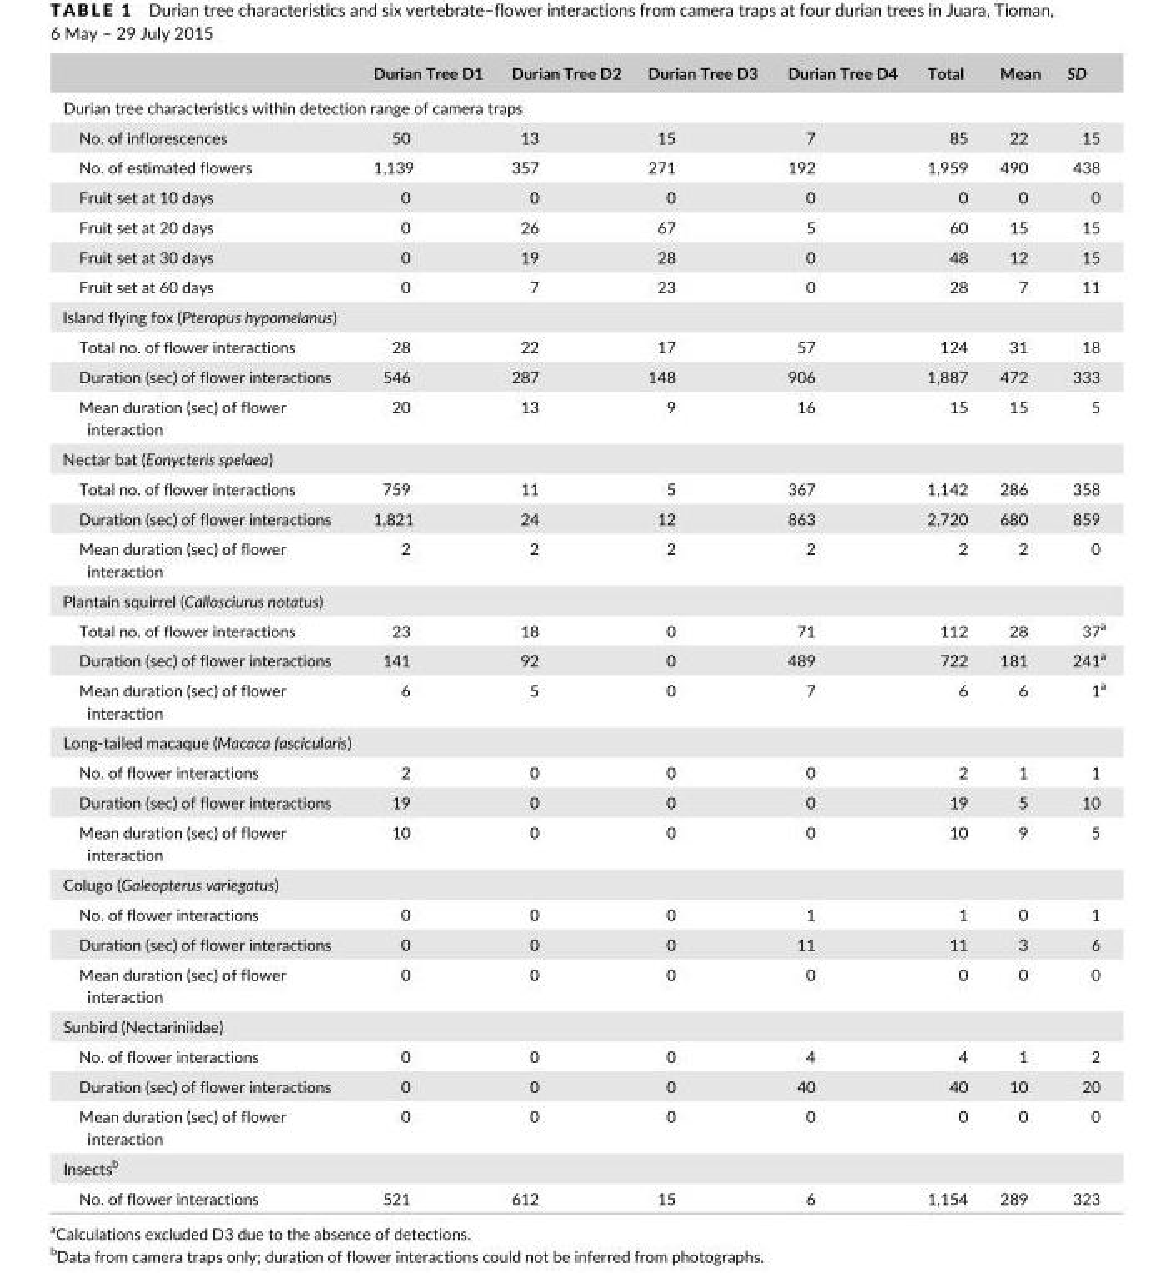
<table><thead><tr><td></td><td>Durian Tree D1</td><td>Durian Tree D2</td><td>Durian Tree D3</td><td>Durian Tree D4</td><td>Total</td><td>Mean</td><td>SD</td></tr></thead><tbody><tr><td colspan="8">Durian tree characteristics within detection range of camera traps</td></tr><tr><td>No. of inflorescences</td><td>50</td><td>13</td><td>15</td><td>7</td><td>85</td><td>22</td><td>15</td></tr><tr><td>No. of estimated flowers</td><td>1,139</td><td>357</td><td>271</td><td>192</td><td>1,959</td><td>490</td><td>438</td></tr><tr><td>Fruit set at 10 days</td><td>0</td><td>0</td><td>0</td><td>0</td><td>0</td><td>0</td><td>0</td></tr><tr><td>Fruit set at 20 days</td><td>0</td><td>26</td><td>67</td><td>5</td><td>60</td><td>15</td><td>15</td></tr><tr><td>Fruit set at 30 days</td><td>0</td><td>19</td><td>28</td><td>0</td><td>48</td><td>12</td><td>15</td></tr><tr><td>Fruit set at 60 days</td><td>0</td><td>7</td><td>23</td><td>0</td><td>28</td><td>7</td><td>11</td></tr><tr><td colspan="8">Island flying fox (Pteropus hypomelanus)</td></tr><tr><td>Total no. of flower interactions</td><td>28</td><td>22</td><td>17</td><td>57</td><td>124</td><td>31</td><td>18</td></tr><tr><td>Duration (sec) of flower interactions</td><td>546</td><td>287</td><td>148</td><td>906</td><td>1,887</td><td>472</td><td>333</td></tr><tr><td>Mean duration (sec) of flower interaction</td><td>20</td><td>13</td><td>9</td><td>16</td><td>15</td><td>15</td><td>5</td></tr><tr><td colspan="8">Nectar bat (Eonycteris spelaea)</td></tr><tr><td>Total no. of flower interactions</td><td>759</td><td>11</td><td>5</td><td>367</td><td>1,142</td><td>286</td><td>358</td></tr><tr><td>Duration (sec) of flower interactions</td><td>1,821</td><td>24</td><td>12</td><td>863</td><td>2,720</td><td>680</td><td>859</td></tr><tr><td>Mean duration (sec) of flower interaction</td><td>2</td><td>2</td><td>2</td><td>2</td><td>2</td><td>2</td><td>0</td></tr><tr><td colspan="8">Plantain squirrel (Callosciurus notatus)</td></tr><tr><td>Total no. of flower interactions</td><td>23</td><td>18</td><td>0</td><td>71</td><td>112</td><td>28</td><td>37<sup>a</sup></td></tr><tr><td>Duration (sec) of flower interactions</td><td>141</td><td>92</td><td>0</td><td>489</td><td>722</td><td>181</td><td>241<sup>a</sup></td></tr><tr><td>Mean duration (sec) of flower interaction</td><td>6</td><td>5</td><td>0</td><td>7</td><td>6</td><td>6</td><td>1<sup>a</sup></td></tr><tr><td colspan="8">Long- tailed macaque (Macaca fascicularis)</td></tr><tr><td>No. of flower interactions</td><td>2</td><td>0</td><td>0</td><td>0</td><td>2</td><td>1</td><td>1</td></tr><tr><td>Duration (sec) of flower interactions</td><td>19</td><td>0</td><td>0</td><td>0</td><td>19</td><td>5</td><td>10</td></tr><tr><td>Mean duration (sec) of flower interaction</td><td>10</td><td>0</td><td>0</td><td>0</td><td>10</td><td>9</td><td>5</td></tr><tr><td colspan="8">Colugo (Galeopterus variegatus)</td></tr><tr><td>No. of flower interactions</td><td>0</td><td>0</td><td>0</td><td>1</td><td>1</td><td>0</td><td>1</td></tr><tr><td>Duration (sec) of flower interactions</td><td>0</td><td>0</td><td>0</td><td>11</td><td>11</td><td>3</td><td>6</td></tr><tr><td>Mean duration (sec) of flower interaction</td><td>0</td><td>0</td><td>0</td><td>0</td><td>0</td><td>0</td><td>0</td></tr><tr><td colspan="8">Sunbird (Nectariniidae)</td></tr><tr><td>No. of flower interactions</td><td>0</td><td>0</td><td>0</td><td>4</td><td>4</td><td>1</td><td>2</td></tr><tr><td>Duration (sec) of flower interactions</td><td>0</td><td>0</td><td>0</td><td>40</td><td>40</td><td>10</td><td>20</td></tr><tr><td>Mean duration (sec) of flower interaction</td><td>0</td><td>0</td><td>0</td><td>0</td><td>0</td><td>0</td><td>0</td></tr><tr><td colspan="8">Insects<sup>b</sup></td></tr><tr><td>No. of flower interactions</td><td>521</td><td>612</td><td>15</td><td>6</td><td>1,154</td><td>289</td><td>323</td></tr></tbody></table>